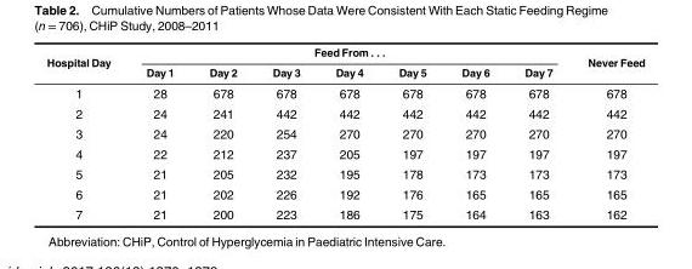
<table><thead><tr><td rowspan="2">Hospital Day</td><td colspan="7">Feed From . . .</td><td rowspan="2">Never Feed</td></tr><tr><td>Day 1</td><td>Day 2</td><td>Day 3</td><td>Day 4</td><td>Day 5</td><td>Day 6</td><td>Day 7</td></tr></thead><tbody><tr><td>1</td><td>28</td><td>678</td><td>678</td><td>678</td><td>678</td><td>678</td><td>678</td><td>678</td></tr><tr><td>2</td><td>24</td><td>241</td><td>442</td><td>442</td><td>442</td><td>442</td><td>442</td><td>442</td></tr><tr><td>3</td><td>24</td><td>220</td><td>254</td><td>270</td><td>270</td><td>270</td><td>270</td><td>270</td></tr><tr><td>4</td><td>22</td><td>212</td><td>237</td><td>205</td><td>197</td><td>197</td><td>197</td><td>197</td></tr><tr><td>5</td><td>21</td><td>205</td><td>232</td><td>195</td><td>178</td><td>173</td><td>173</td><td>173</td></tr><tr><td>6</td><td>21</td><td>202</td><td>226</td><td>192</td><td>176</td><td>165</td><td>165</td><td>165</td></tr><tr><td>7</td><td>21</td><td>200</td><td>223</td><td>186</td><td>175</td><td>164</td><td>163</td><td>162</td></tr></tbody></table>